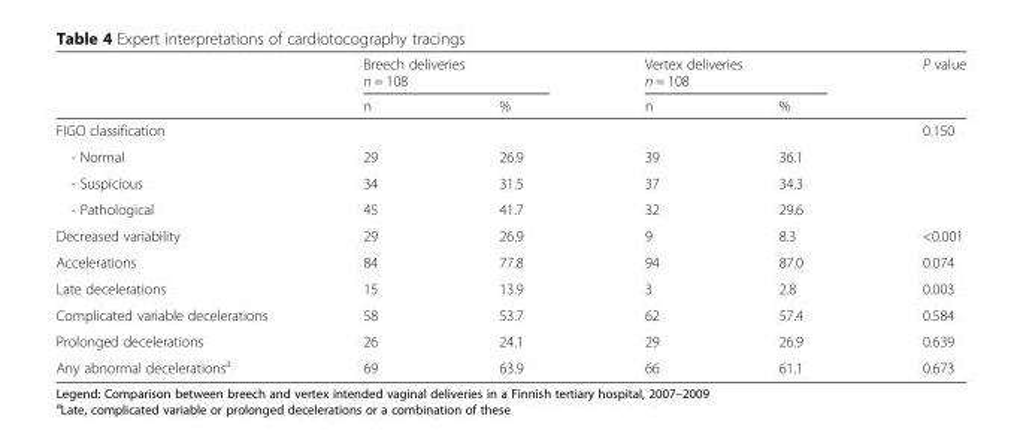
<table><thead><tr><td rowspan="2"></td><td colspan="2">Breech deliveries n = 108</td><td colspan="2">Vertex deliveries n = 108</td><td rowspan="2">P value</td></tr><tr><td>n</td><td>%</td><td>n</td><td>%</td></tr></thead><tbody><tr><td>FIGO classification</td><td></td><td></td><td></td><td></td><td>0.150</td></tr><tr><td>- Normal</td><td>29</td><td>26.9</td><td>39</td><td>36.1</td><td></td></tr><tr><td>- Suspicious</td><td>34</td><td>31.5</td><td>37</td><td>34.3</td><td></td></tr><tr><td>- Pathological</td><td>45</td><td>41.7</td><td>32</td><td>29.6</td><td></td></tr><tr><td>Decreased variability</td><td>29</td><td>26.9</td><td>9</td><td>8.3</td><td>&lt;0.001</td></tr><tr><td>Accelerations</td><td>84</td><td>77.8</td><td>94</td><td>87.0</td><td>0.074</td></tr><tr><td>Late decelerations</td><td>15</td><td>13.9</td><td>3</td><td>2.8</td><td>0.003</td></tr><tr><td>Complicated variable decelerations</td><td>58</td><td>53.7</td><td>62</td><td>57.4</td><td>0.584</td></tr><tr><td>Prolonged decelerations</td><td>26</td><td>24.1</td><td>29</td><td>26.9</td><td>0.639</td></tr><tr><td>Any abnormal decelerations<sup>a</sup></td><td>69</td><td>63.9</td><td>66</td><td>61.1</td><td>0.673</td></tr></tbody></table>